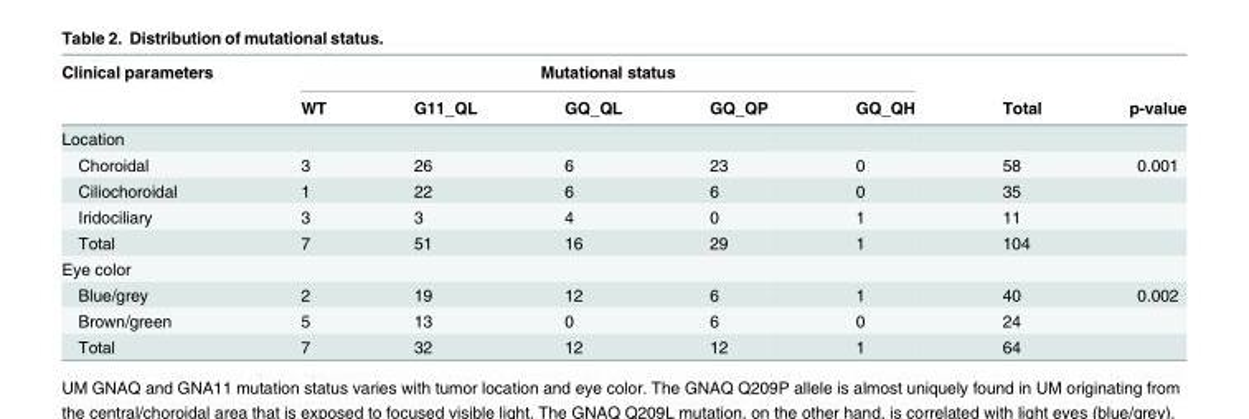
<table><thead><tr><td rowspan="2">Clinical parameters</td><td colspan="5">Mutational status</td><td rowspan="2">Total</td><td rowspan="2">p-value</td></tr><tr><td>WT</td><td>G11_QL</td><td>GQ_QL</td><td>GQ_QP</td><td>GQ_QH</td></tr></thead><tbody><tr><td colspan="8">Location</td></tr><tr><td>Choroidal</td><td>3</td><td>26</td><td>6</td><td>23</td><td>0</td><td>58</td><td>0.001</td></tr><tr><td>Ciliochoroidal</td><td>1</td><td>22</td><td>6</td><td>6</td><td>0</td><td>35</td><td></td></tr><tr><td>Iridociliary</td><td>3</td><td>3</td><td>4</td><td>0</td><td>1</td><td>11</td><td></td></tr><tr><td>Total</td><td>7</td><td>51</td><td>16</td><td>29</td><td>1</td><td>104</td><td></td></tr><tr><td colspan="8">Eye color</td></tr><tr><td>Blue/grey</td><td>2</td><td>19</td><td>12</td><td>6</td><td>1</td><td>40</td><td>0.002</td></tr><tr><td>Brown/green</td><td>5</td><td>13</td><td>0</td><td>6</td><td>0</td><td>24</td><td></td></tr><tr><td>Total</td><td>7</td><td>32</td><td>12</td><td>12</td><td>1</td><td>64</td><td></td></tr></tbody></table>